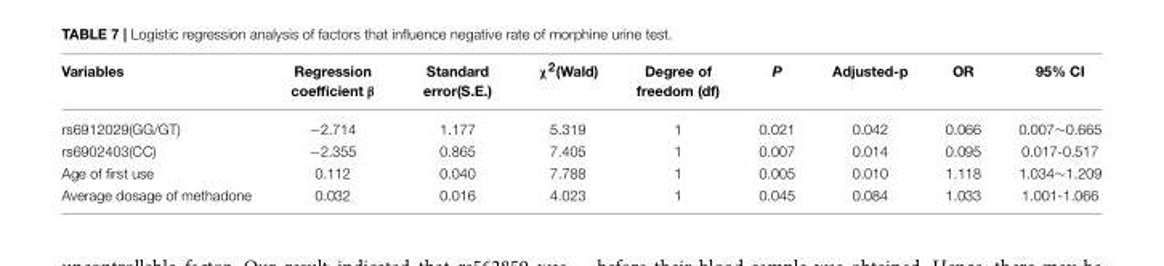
<table><thead><tr><td>Variables</td><td>Regression coefficient β</td><td>Standard error(S.E.)</td><td>χ<sup>2</sup>(Wald)</td><td>Degree of freedom (df)</td><td>P</td><td>Adjusted-p</td><td>OR</td><td>95% CI</td></tr></thead><tbody><tr><td>rs6912029(GG/GT)</td><td>−2.714</td><td>1.177</td><td>5.319</td><td>1</td><td>0.021</td><td>0.042</td><td>0.066</td><td>0.007∼0.665</td></tr><tr><td>rs6902403(CC)</td><td>−2.355</td><td>0.865</td><td>7.405</td><td>1</td><td>0.007</td><td>0.014</td><td>0.095</td><td>0.017-0.517</td></tr><tr><td>Age of first use</td><td>0.112</td><td>0.040</td><td>7.788</td><td>1</td><td>0.005</td><td>0.010</td><td>1.118</td><td>1.034∼1.209</td></tr><tr><td>Average dosage of methadone</td><td>0.032</td><td>0.016</td><td>4.023</td><td>1</td><td>0.045</td><td>0.084</td><td>1.033</td><td>1.001-1.066</td></tr></tbody></table>